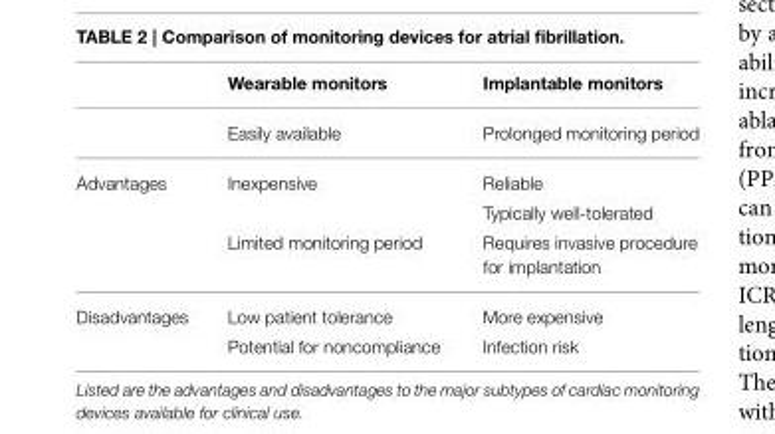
<table><thead><tr><td></td><td>Wearable monitors</td><td>Implantable monitors</td></tr></thead><tbody><tr><td></td><td>Easily available</td><td>Prolonged monitoring period</td></tr><tr><td rowspan="3">Advantages</td><td>Inexpensive</td><td>Reliable</td></tr><tr><td></td><td>Typically well-tolerated</td></tr><tr><td>Limited monitoring period</td><td>Requires invasive procedure for implantation</td></tr><tr><td rowspan="2">Disadvantages</td><td>Low patient tolerance</td><td>More expensive</td></tr><tr><td>Potential for noncompliance</td><td>Infection risk</td></tr></tbody></table>